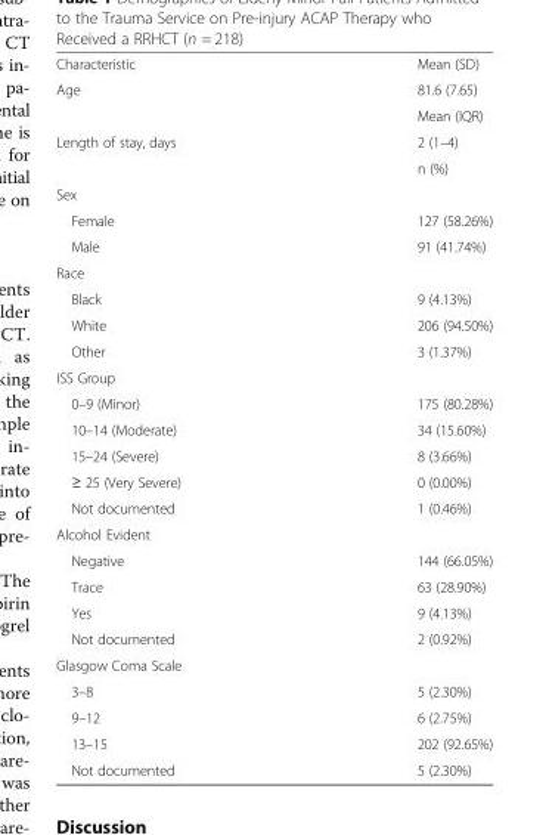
<table><tbody><tr><td>Characteristic</td><td>Mean (SD)</td></tr><tr><td rowspan="2">Age</td><td>81.6 (7.65)</td></tr><tr><td>Mean (IQR)</td></tr><tr><td rowspan="2">Length of stay, days</td><td>2 (1–4)</td></tr><tr><td>n (%)</td></tr><tr><td colspan="2">Sex</td></tr><tr><td>Female</td><td>127 (58.26%)</td></tr><tr><td>Male</td><td>91 (41.74%)</td></tr><tr><td colspan="2">Race</td></tr><tr><td>Black</td><td>9 (4.13%)</td></tr><tr><td>White</td><td>206 (94.50%)</td></tr><tr><td>Other</td><td>3 (1.37%)</td></tr><tr><td colspan="2">ISS Group</td></tr><tr><td>0–9 (Minor)</td><td>175 (80.28%)</td></tr><tr><td>10–14 (Moderate)</td><td>34 (15.60%)</td></tr><tr><td>15–24 (Severe)</td><td>8 (3.66%)</td></tr><tr><td>≥ 25 (Very Severe)</td><td>0 (0.00%)</td></tr><tr><td>Not documented</td><td>1 (0.46%)</td></tr><tr><td colspan="2">Alcohol Evident</td></tr><tr><td>Negative</td><td>144 (66.05%)</td></tr><tr><td>Trace</td><td>63 (28.90%)</td></tr><tr><td>Yes</td><td>9 (4.13%)</td></tr><tr><td>Not documented</td><td>2 (0.92%)</td></tr><tr><td colspan="2">Glasgow Coma Scale</td></tr><tr><td>3–8</td><td>5 (2.30%)</td></tr><tr><td>9–12</td><td>6 (2.75%)</td></tr><tr><td>13–15</td><td>202 (92.65%)</td></tr><tr><td>Not documented</td><td>5 (2.30%)</td></tr></tbody></table>